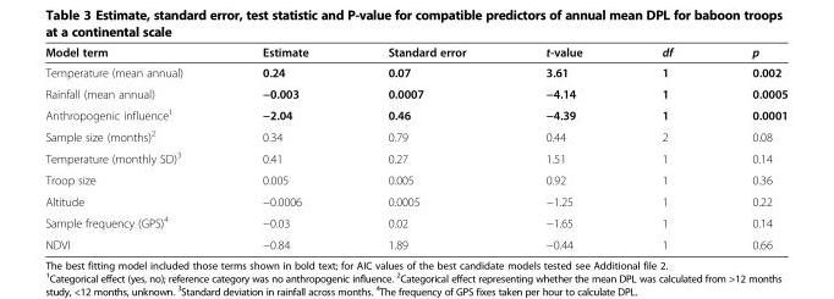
<table><thead><tr><td>Model term</td><td>Estimate</td><td>Standard error</td><td>t-value</td><td>df</td><td>p</td></tr></thead><tbody><tr><td>Temperature (mean annual)</td><td>0.24</td><td>0.07</td><td>3.61</td><td>1</td><td>0.002</td></tr><tr><td>Rainfall (mean annual)</td><td>−0.003</td><td>0.0007</td><td>−4.14</td><td>1</td><td>0.0005</td></tr><tr><td>Anthropogenic influence<sup>1</sup></td><td>−2.04</td><td>0.46</td><td>−4.39</td><td>1</td><td>0.0001</td></tr><tr><td>Sample size (months)<sup>2</sup></td><td>0.34</td><td>0.79</td><td>0.44</td><td>2</td><td>0.08</td></tr><tr><td>Temperature (monthly SD)<sup>3</sup></td><td>0.41</td><td>0.27</td><td>1.51</td><td>1</td><td>0.14</td></tr><tr><td>Troop size</td><td>0.005</td><td>0.005</td><td>0.92</td><td>1</td><td>0.36</td></tr><tr><td>Altitude</td><td>−0.0006</td><td>0.0005</td><td>−1.25</td><td>1</td><td>0.22</td></tr><tr><td>Sample frequency (GPS)<sup>4</sup></td><td>−0.03</td><td>0.02</td><td>−1.65</td><td>1</td><td>0.14</td></tr><tr><td>NDVI</td><td>−0.84</td><td>1.89</td><td>−0.44</td><td>1</td><td>0.66</td></tr></tbody></table>